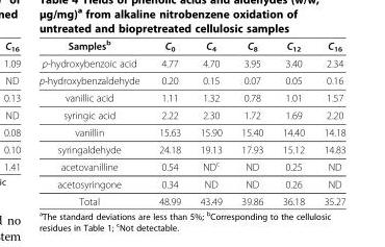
<table><thead><tr><td>Samples<sup>b</sup></td><td>C<sub>0</sub></td><td>C<sub>4</sub></td><td>C<sub>8</sub></td><td>C<sub>12</sub></td><td>C<sub>16</sub></td></tr></thead><tbody><tr><td>p-hydroxybenzoic acid</td><td>4.77</td><td>4.70</td><td>3.95</td><td>3.40</td><td>2.34</td></tr><tr><td>p-hydroxybenzaldehyde</td><td>0.20</td><td>0.15</td><td>0.07</td><td>0.05</td><td>0.16</td></tr><tr><td>vanillic acid</td><td>1.11</td><td>1.32</td><td>0.78</td><td>1.01</td><td>1.57</td></tr><tr><td>syringic acid</td><td>2.22</td><td>2.30</td><td>1.72</td><td>1.69</td><td>2.20</td></tr><tr><td>vanillin</td><td>15.63</td><td>15.90</td><td>15.40</td><td>14.40</td><td>14.18</td></tr><tr><td>syringaldehyde</td><td>24.18</td><td>19.13</td><td>17.93</td><td>15.12</td><td>14.83</td></tr><tr><td>acetovanilline</td><td>0.54</td><td>ND<sup>c</sup></td><td>ND</td><td>0.25</td><td>ND</td></tr><tr><td>acetosyringone</td><td>0.34</td><td>ND</td><td>ND</td><td>0.26</td><td>ND</td></tr><tr><td>Total</td><td>48.99</td><td>43.49</td><td>39.86</td><td>36.18</td><td>35.27</td></tr></tbody></table>